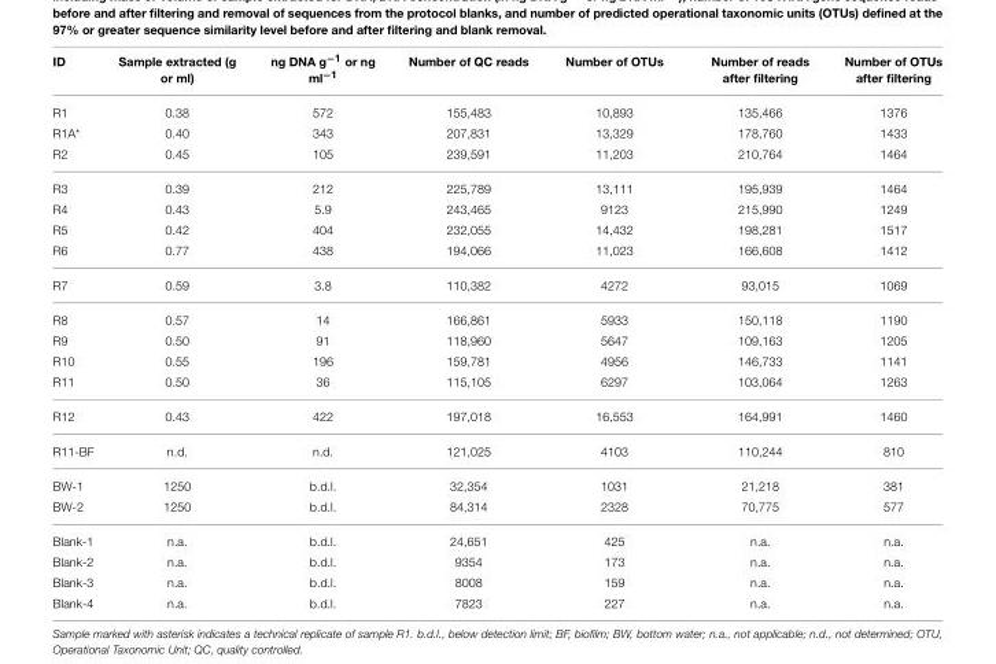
<table><thead><tr><td>ID</td><td>Sample extracted (g or ml)</td><td>ng DNA g<sup>−1</sup> or ng ml<sup>−1</sup></td><td>Number of QC reads</td><td>Number of OTUs</td><td>Number of reads after filtering</td><td>Number of OTUs after filtering</td></tr></thead><tbody><tr><td>R1</td><td>0.38</td><td>572</td><td>155,483</td><td>10,893</td><td>135,466</td><td>1376</td></tr><tr><td>R1A*</td><td>0.40</td><td>343</td><td>207,831</td><td>13,329</td><td>178,760</td><td>1433</td></tr><tr><td>R2</td><td>0.45</td><td>105</td><td>239,591</td><td>11,203</td><td>210,764</td><td>1464</td></tr><tr><td>R3</td><td>0.39</td><td>212</td><td>225,789</td><td>13,111</td><td>195,939</td><td>1464</td></tr><tr><td>R4</td><td>0.43</td><td>5.9</td><td>243,465</td><td>9123</td><td>215,990</td><td>1249</td></tr><tr><td>R5</td><td>0.42</td><td>404</td><td>232,055</td><td>14,432</td><td>198,281</td><td>1517</td></tr><tr><td>R6</td><td>0.77</td><td>438</td><td>194,066</td><td>11,023</td><td>166,608</td><td>1412</td></tr><tr><td>R7</td><td>0.59</td><td>3.8</td><td>110,382</td><td>4272</td><td>93,015</td><td>1069</td></tr><tr><td>R8</td><td>0.57</td><td>14</td><td>166,861</td><td>5933</td><td>150,118</td><td>1190</td></tr><tr><td>R9</td><td>0.50</td><td>91</td><td>118,960</td><td>5647</td><td>109,163</td><td>1205</td></tr><tr><td>R10</td><td>0.55</td><td>196</td><td>159,781</td><td>4956</td><td>146,733</td><td>1141</td></tr><tr><td>R11</td><td>0.50</td><td>36</td><td>115,105</td><td>6297</td><td>103,064</td><td>1263</td></tr><tr><td>R12</td><td>0.43</td><td>422</td><td>197,018</td><td>16,553</td><td>164,991</td><td>1460</td></tr><tr><td>R11-BF</td><td>n.d.</td><td>n.d.</td><td>121,025</td><td>4103</td><td>110,244</td><td>810</td></tr><tr><td>BW-1</td><td>1250</td><td>b.d.l.</td><td>32,354</td><td>1031</td><td>21,218</td><td>381</td></tr><tr><td>BW-2</td><td>1250</td><td>b.d.l.</td><td>84,314</td><td>2328</td><td>70,775</td><td>577</td></tr><tr><td>Blank-1</td><td>n.a.</td><td>b.d.l.</td><td>24,651</td><td>425</td><td>n.a.</td><td>n.a.</td></tr><tr><td>Blank-2</td><td>n.a.</td><td>b.d.l.</td><td>9354</td><td>173</td><td>n.a.</td><td>n.a.</td></tr><tr><td>Blank-3</td><td>n.a.</td><td>b.d.l.</td><td>8008</td><td>159</td><td>n.a.</td><td>n.a.</td></tr><tr><td>Blank-4</td><td>n.a.</td><td>b.d.l.</td><td>7823</td><td>227</td><td>n.a.</td><td>n.a.</td></tr></tbody></table>